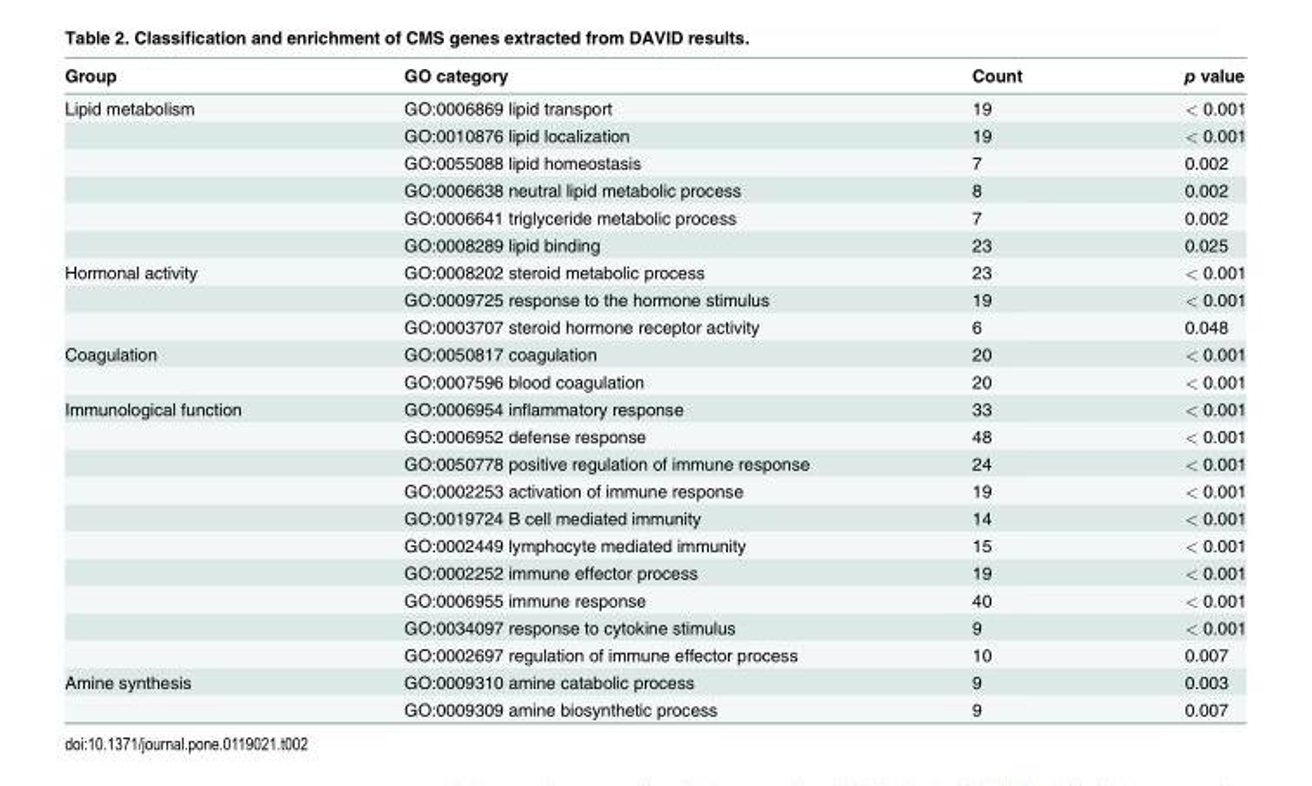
<table><thead><tr><td>Group</td><td>GO category</td><td>Count</td><td>p value</td></tr></thead><tbody><tr><td rowspan="6">Lipid metabolism</td><td>GO:0006869 lipid transport</td><td>19</td><td>&lt; 0.001</td></tr><tr><td>GO:0010876 lipid localization</td><td>19</td><td>&lt; 0.001</td></tr><tr><td>GO:0055088 lipid homeostasis</td><td>7</td><td>0.002</td></tr><tr><td>GO:0006638 neutral lipid metabolic process</td><td>8</td><td>0.002</td></tr><tr><td>GO:0006641 triglyceride metabolic process</td><td>7</td><td>0.002</td></tr><tr><td>GO:0008289 lipid binding</td><td>23</td><td>0.025</td></tr><tr><td rowspan="3">Hormonal activity</td><td>GO:0008202 steroid metabolic process</td><td>23</td><td>&lt; 0.001</td></tr><tr><td>GO:0009725 response to the hormone stimulus</td><td>19</td><td>&lt; 0.001</td></tr><tr><td>GO:0003707 steroid hormone receptor activity</td><td>6</td><td>0.048</td></tr><tr><td rowspan="2">Coagulation</td><td>GO:0050817 coagulation</td><td>20</td><td>&lt; 0.001</td></tr><tr><td>GO:0007596 blood coagulation</td><td>20</td><td>&lt; 0.001</td></tr><tr><td rowspan="10">Immunological function</td><td>GO:0006954 inflammatory response</td><td>33</td><td>&lt; 0.001</td></tr><tr><td>GO:0006952 defense response</td><td>48</td><td>&lt; 0.001</td></tr><tr><td>GO:0050778 positive regulation of immune response</td><td>24</td><td>&lt; 0.001</td></tr><tr><td>GO:0002253 activation of immune response</td><td>19</td><td>&lt; 0.001</td></tr><tr><td>GO:0019724 B cell mediated immunity</td><td>14</td><td>&lt; 0.001</td></tr><tr><td>GO:0002449 lymphocyte mediated immunity</td><td>15</td><td>&lt; 0.001</td></tr><tr><td>GO:0002252 immune effector process</td><td>19</td><td>&lt; 0.001</td></tr><tr><td>GO:0006955 immune response</td><td>40</td><td>&lt; 0.001</td></tr><tr><td>GO:0034097 response to cytokine stimulus</td><td>9</td><td>&lt; 0.001</td></tr><tr><td>GO:0002697 regulation of immune effector process</td><td>10</td><td>0.007</td></tr><tr><td rowspan="2">Amine synthesis</td><td>GO:0009310 amine catabolic process</td><td>9</td><td>0.003</td></tr><tr><td>GO:0009309 amine biosynthetic process</td><td>9</td><td>0.007</td></tr></tbody></table>